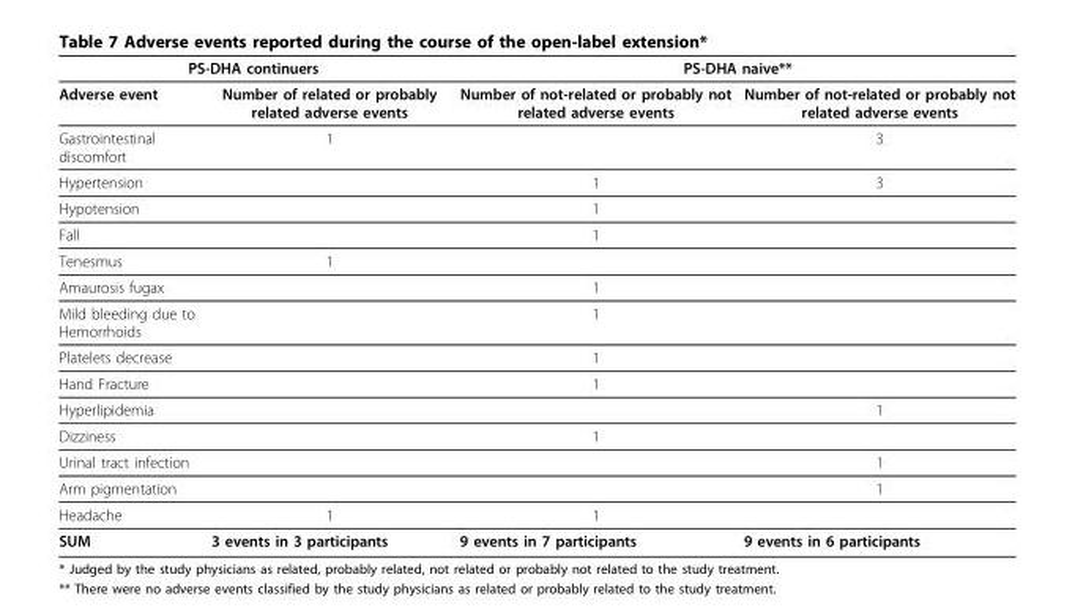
<table><thead><tr><td colspan="2">PS-DHA continuers</td><td colspan="2">PS-DHA naive**</td></tr><tr><td>Adverse event</td><td>Number of related or probably related adverse events</td><td>Number of not-related or probably not related adverse events</td><td>Number of not-related or probably not related adverse events</td></tr></thead><tbody><tr><td>Gastrointestinal discomfort</td><td>1</td><td></td><td>3</td></tr><tr><td>Hypertension</td><td></td><td>1</td><td>3</td></tr><tr><td>Hypotension</td><td></td><td>1</td><td></td></tr><tr><td>Fall</td><td></td><td>1</td><td></td></tr><tr><td>Tenesmus</td><td>1</td><td></td><td></td></tr><tr><td>Amaurosis fugax</td><td></td><td>1</td><td></td></tr><tr><td>Mild bleeding due to Hemorrhoids</td><td></td><td>1</td><td></td></tr><tr><td>Platelets decrease</td><td></td><td>1</td><td></td></tr><tr><td>Hand Fracture</td><td></td><td>1</td><td></td></tr><tr><td>Hyperlipidemia</td><td></td><td></td><td>1</td></tr><tr><td>Dizziness</td><td></td><td>1</td><td></td></tr><tr><td>Urinal tract infection</td><td></td><td></td><td>1</td></tr><tr><td>Arm pigmentation</td><td></td><td></td><td>1</td></tr><tr><td>Headache</td><td>1</td><td>1</td><td></td></tr><tr><td>SUM</td><td>3 events in 3 participants</td><td>9 events in 7 participants</td><td>9 events in 6 participants</td></tr></tbody></table>